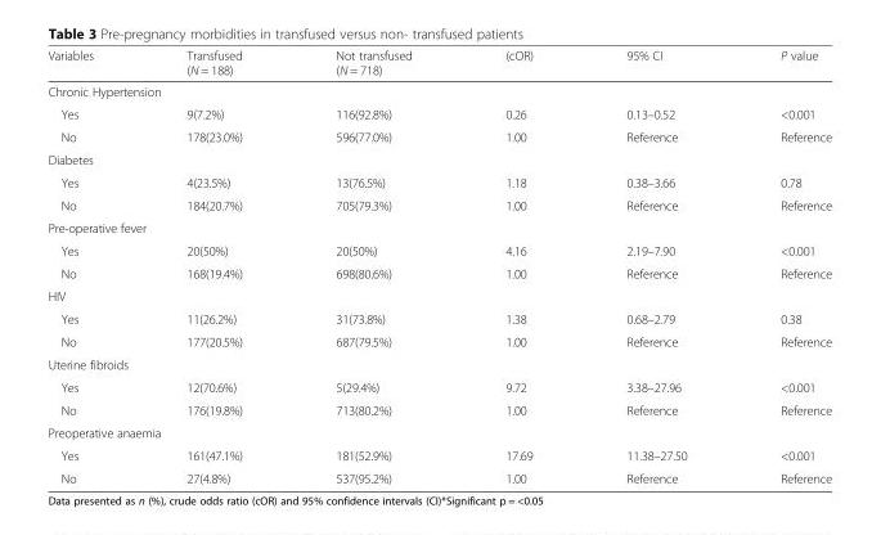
<table><thead><tr><td>Variables</td><td>Transfused (N = 188)</td><td>Not transfused (N = 718)</td><td>(cOR)</td><td>95% CI</td><td>P value</td></tr></thead><tbody><tr><td colspan="6">Chronic Hypertension</td></tr><tr><td>Yes</td><td>9(7.2%)</td><td>116(92.8%)</td><td>0.26</td><td>0.13–0.52</td><td>&lt;0.001</td></tr><tr><td>No</td><td>178(23.0%)</td><td>596(77.0%)</td><td>1.00</td><td>Reference</td><td>Reference</td></tr><tr><td colspan="6">Diabetes</td></tr><tr><td>Yes</td><td>4(23.5%)</td><td>13(76.5%)</td><td>1.18</td><td>0.38–3.66</td><td>0.78</td></tr><tr><td>No</td><td>184(20.7%)</td><td>705(79.3%)</td><td>1.00</td><td>Reference</td><td>Reference</td></tr><tr><td colspan="6">Pre-operative fever</td></tr><tr><td>Yes</td><td>20(50%)</td><td>20(50%)</td><td>4.16</td><td>2.19–7.90</td><td>&lt;0.001</td></tr><tr><td>No</td><td>168(19.4%)</td><td>698(80.6%)</td><td>1.00</td><td>Reference</td><td>Reference</td></tr><tr><td colspan="6">HIV</td></tr><tr><td>Yes</td><td>11(26.2%)</td><td>31(73.8%)</td><td>1.38</td><td>0.68–2.79</td><td>0.38</td></tr><tr><td>No</td><td>177(20.5%)</td><td>687(79.5%)</td><td>1.00</td><td>Reference</td><td>Reference</td></tr><tr><td colspan="6">Uterine fibroids</td></tr><tr><td>Yes</td><td>12(70.6%)</td><td>5(29.4%)</td><td>9.72</td><td>3.38–27.96</td><td>&lt;0.001</td></tr><tr><td>No</td><td>176(19.8%)</td><td>713(80.2%)</td><td>1.00</td><td>Reference</td><td>Reference</td></tr><tr><td colspan="6">Preoperative anaemia</td></tr><tr><td>Yes</td><td>161(47.1%)</td><td>181(52.9%)</td><td>17.69</td><td>11.38–27.50</td><td>&lt;0.001</td></tr><tr><td>No</td><td>27(4.8%)</td><td>537(95.2%)</td><td>1.00</td><td>Reference</td><td>Reference</td></tr></tbody></table>